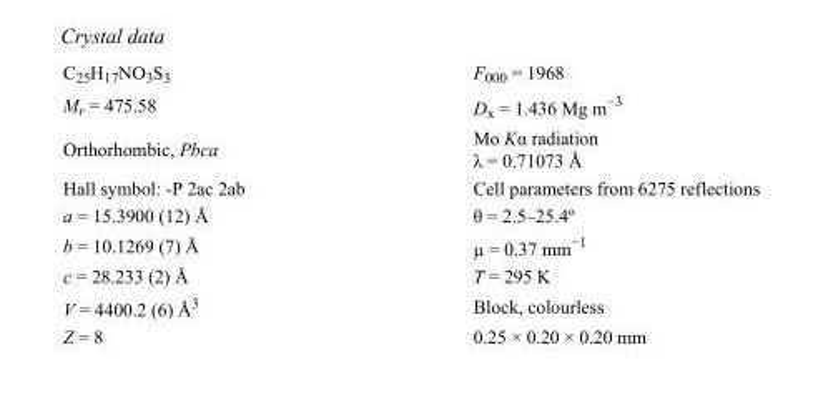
<table><tbody><tr><td>C<sub>25</sub>H<sub>17</sub>NO<sub>3</sub>S<sub>3</sub></td><td>F000 = 1968</td></tr><tr><td>M<sub>r</sub> = 475.58</td><td>D<sub>x</sub> = 1.436 Mg m<sup>−3</sup></td></tr><tr><td>Orthorhombic, Pbca</td><td>Mo Kα radiation λ = 0.71073 Å</td></tr><tr><td>Hall symbol: -P 2ac 2ab</td><td>Cell parameters from 6275 reflections</td></tr><tr><td>a = 15.3900 (12) Å</td><td>θ = 2.5–25.4º</td></tr><tr><td>b = 10.1269 (7) Å</td><td>µ = 0.37 mm<sup>−1</sup></td></tr><tr><td>c = 28.233 (2) Å</td><td>T = 295 K</td></tr><tr><td>V = 4400.2 (6) Å<sup>3</sup></td><td>Block, colourless</td></tr><tr><td>Z = 8</td><td>0.25 × 0.20 × 0.20 mm</td></tr></tbody></table>